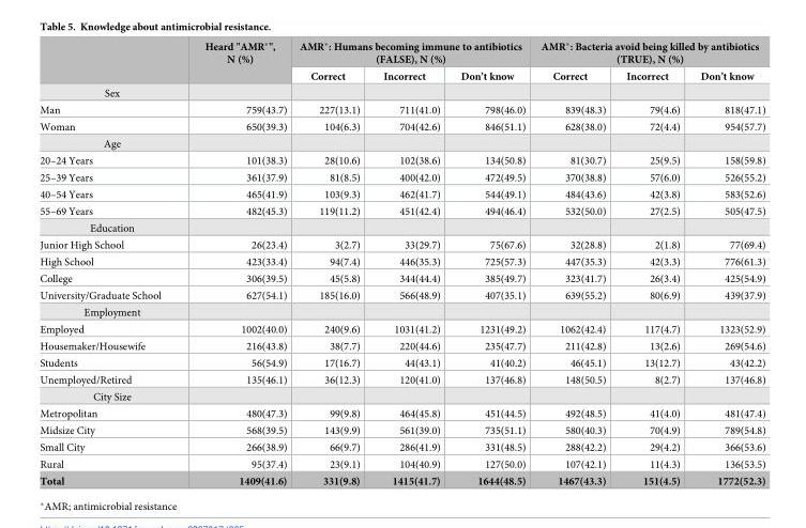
<table><thead><tr><td rowspan="2"></td><td rowspan="2">Heard &quot;AMR*&quot;, N (%)</td><td colspan="3">AMR*: Humans becoming immune to antibiotics (FALSE), N (%)</td><td colspan="3">AMR*: Bacteria avoid being killed by antibiotics (TRUE), N (%)</td></tr><tr><td>Correct</td><td>Incorrect</td><td>Don’t know</td><td>Correct</td><td>Incorrect</td><td>Don’t know</td></tr></thead><tbody><tr><td colspan="8">Sex</td></tr><tr><td>Man</td><td>759(43.7)</td><td>227(13.1)</td><td>711(41.0)</td><td>798(46.0)</td><td>839(48.3)</td><td>79(4.6)</td><td>818(47.1)</td></tr><tr><td>Woman</td><td>650(39.3)</td><td>104(6.3)</td><td>704(42.6)</td><td>846(51.1)</td><td>628(38.0)</td><td>72(4.4)</td><td>954(57.7)</td></tr><tr><td colspan="8">Age</td></tr><tr><td>20–24 Years</td><td>101(38.3)</td><td>28(10.6)</td><td>102(38.6)</td><td>134(50.8)</td><td>81(30.7)</td><td>25(9.5)</td><td>158(59.8)</td></tr><tr><td>25–39 Years</td><td>361(37.9)</td><td>81(8.5)</td><td>400(42.0)</td><td>472(49.5)</td><td>370(38.8)</td><td>57(6.0)</td><td>526(55.2)</td></tr><tr><td>40–54 Years</td><td>465(41.9)</td><td>103(9.3)</td><td>462(41.7)</td><td>544(49.1)</td><td>484(43.6)</td><td>42(3.8)</td><td>583(52.6)</td></tr><tr><td>55–69 Years</td><td>482(45.3)</td><td>119(11.2)</td><td>451(42.4)</td><td>494(46.4)</td><td>532(50.0)</td><td>27(2.5)</td><td>505(47.5)</td></tr><tr><td colspan="8">Education</td></tr><tr><td>Junior High School</td><td>26(23.4)</td><td>3(2.7)</td><td>33(29.7)</td><td>75(67.6)</td><td>32(28.8)</td><td>2(1.8)</td><td>77(69.4)</td></tr><tr><td>High School</td><td>423(33.4)</td><td>94(7.4)</td><td>446(35.3)</td><td>725(57.3)</td><td>447(35.3)</td><td>42(3.3)</td><td>776(61.3)</td></tr><tr><td>College</td><td>306(39.5)</td><td>45(5.8)</td><td>344(44.4)</td><td>385(49.7)</td><td>323(41.7)</td><td>26(3.4)</td><td>425(54.9)</td></tr><tr><td>University/Graduate School</td><td>627(54.1)</td><td>185(16.0)</td><td>566(48.9)</td><td>407(35.1)</td><td>639(55.2)</td><td>80(6.9)</td><td>439(37.9)</td></tr><tr><td colspan="8">Employment</td></tr><tr><td>Employed</td><td>1002(40.0)</td><td>240(9.6)</td><td>1031(41.2)</td><td>1231(49.2)</td><td>1062(42.4)</td><td>117(4.7)</td><td>1323(52.9)</td></tr><tr><td>Housemaker/Housewife</td><td>216(43.8)</td><td>38(7.7)</td><td>220(44.6)</td><td>235(47.7)</td><td>211(42.8)</td><td>13(2.6)</td><td>269(54.6)</td></tr><tr><td>Students</td><td>56(54.9)</td><td>17(16.7)</td><td>44(43.1)</td><td>41(40.2)</td><td>46(45.1)</td><td>13(12.7)</td><td>43(42.2)</td></tr><tr><td>Unemployed/Retired</td><td>135(46.1)</td><td>36(12.3)</td><td>120(41.0)</td><td>137(46.8)</td><td>148(50.5)</td><td>8(2.7)</td><td>137(46.8)</td></tr><tr><td colspan="8">City Size</td></tr><tr><td>Metropolitan</td><td>480(47.3)</td><td>99(9.8)</td><td>464(45.8)</td><td>451(44.5)</td><td>492(48.5)</td><td>41(4.0)</td><td>481(47.4)</td></tr><tr><td>Midsize City</td><td>568(39.5)</td><td>143(9.9)</td><td>561(39.0)</td><td>735(51.1)</td><td>580(40.3)</td><td>70(4.9)</td><td>789(54.8)</td></tr><tr><td>Small City</td><td>266(38.9)</td><td>66(9.7)</td><td>286(41.9)</td><td>331(48.5)</td><td>288(42.2)</td><td>29(4.2)</td><td>366(53.6)</td></tr><tr><td>Rural</td><td>95(37.4)</td><td>23(9.1)</td><td>104(40.9)</td><td>127(50.0)</td><td>107(42.1)</td><td>11(4.3)</td><td>136(53.5)</td></tr><tr><td>Total</td><td>1409(41.6)</td><td>331(9.8)</td><td>1415(41.7)</td><td>1644(48.5)</td><td>1467(43.3)</td><td>151(4.5)</td><td>1772(52.3)</td></tr></tbody></table>